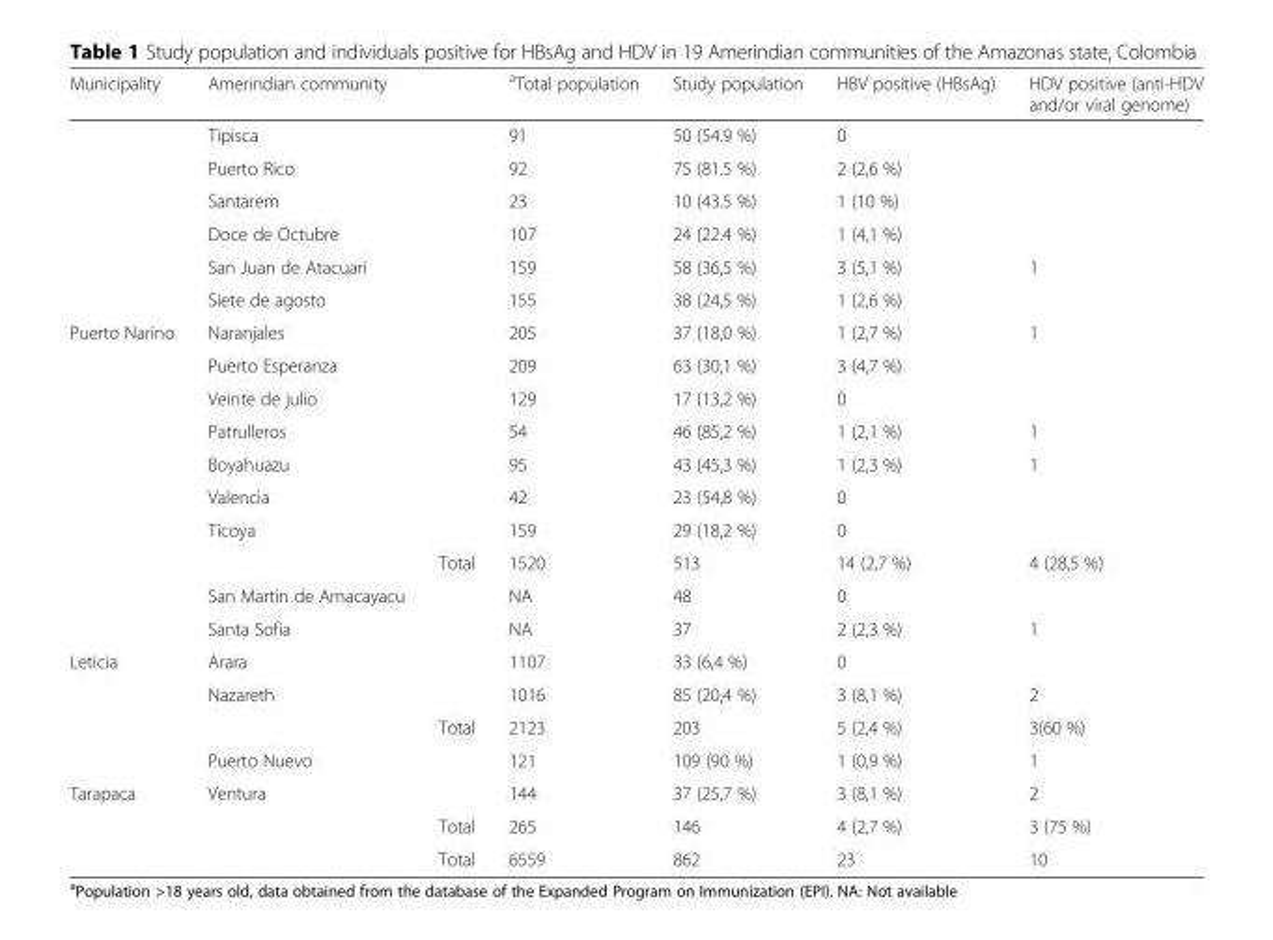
<table><thead><tr><td>Municipality</td><td>Amerindian community</td><td></td><td><sup>a</sup>Total population</td><td>Study population</td><td>HBV positive (HBsAg)</td><td>HDV positive (anti-HDV and/or viral genome)</td></tr></thead><tbody><tr><td></td><td>Tipisca</td><td></td><td>91</td><td>50 (54.9 %)</td><td>0</td><td></td></tr><tr><td></td><td>Puerto Rico</td><td></td><td>92</td><td>75 (81.5 %)</td><td>2 (2,6 %)</td><td></td></tr><tr><td></td><td>Santarem</td><td></td><td>23</td><td>10 (43.5 %)</td><td>1 (10 %)</td><td></td></tr><tr><td></td><td>Doce de Octubre</td><td></td><td>107</td><td>24 (22.4 %)</td><td>1 (4,1 %)</td><td></td></tr><tr><td></td><td>San Juan de Atacuari</td><td></td><td>159</td><td>58 (36,5 %)</td><td>3 (5,1 %)</td><td>1</td></tr><tr><td></td><td>Siete de agosto</td><td></td><td>155</td><td>38 (24,5 %)</td><td>1 (2,6 %)</td><td></td></tr><tr><td rowspan="10">Puerto Narino</td><td>Naranjales</td><td></td><td>205</td><td>37 (18,0 %)</td><td>1 (2,7 %)</td><td>1</td></tr><tr><td>Puerto Esperanza</td><td></td><td>209</td><td>63 (30,1 %)</td><td>3 (4,7 %)</td><td></td></tr><tr><td>Veinte de julio</td><td></td><td>129</td><td>17 (13,2 %)</td><td>0</td><td></td></tr><tr><td>Patrulleros</td><td></td><td>54</td><td>46 (85,2 %)</td><td>1 (2,1 %)</td><td>1</td></tr><tr><td>Boyahuazu</td><td></td><td>95</td><td>43 (45,3 %)</td><td>1 (2,3 %)</td><td>1</td></tr><tr><td>Valencia</td><td></td><td>42</td><td>23 (54,8 %)</td><td>0</td><td></td></tr><tr><td>Ticoya</td><td></td><td>159</td><td>29 (18,2 %)</td><td>0</td><td></td></tr><tr><td></td><td>Total</td><td>1520</td><td>513</td><td>14 (2,7 %)</td><td>4 (28,5 %)</td></tr><tr><td>San Martin de Amacayacu</td><td></td><td>NA</td><td>48</td><td>0</td><td></td></tr><tr><td>Santa Sofia</td><td></td><td>NA</td><td>37</td><td>2 (2,3 %)</td><td>1</td></tr><tr><td rowspan="4">Leticia</td><td>Arara</td><td></td><td>1107</td><td>33 (6,4 %)</td><td>0</td><td></td></tr><tr><td>Nazareth</td><td></td><td>1016</td><td>85 (20,4 %)</td><td>3 (8,1 %)</td><td>2</td></tr><tr><td></td><td>Total</td><td>2123</td><td>203</td><td>5 (2,4 %)</td><td>3(60 %)</td></tr><tr><td>Puerto Nuevo</td><td></td><td>121</td><td>109 (90 %)</td><td>1 (0,9 %)</td><td>1</td></tr><tr><td rowspan="3">Tarapaca</td><td>Ventura</td><td></td><td>144</td><td>37 (25,7 %)</td><td>3 (8,1 %)</td><td>2</td></tr><tr><td></td><td>Total</td><td>265</td><td>146</td><td>4 (2,7 %)</td><td>3 (75 %)</td></tr><tr><td></td><td>Total</td><td>6559</td><td>862</td><td>23</td><td>10</td></tr></tbody></table>